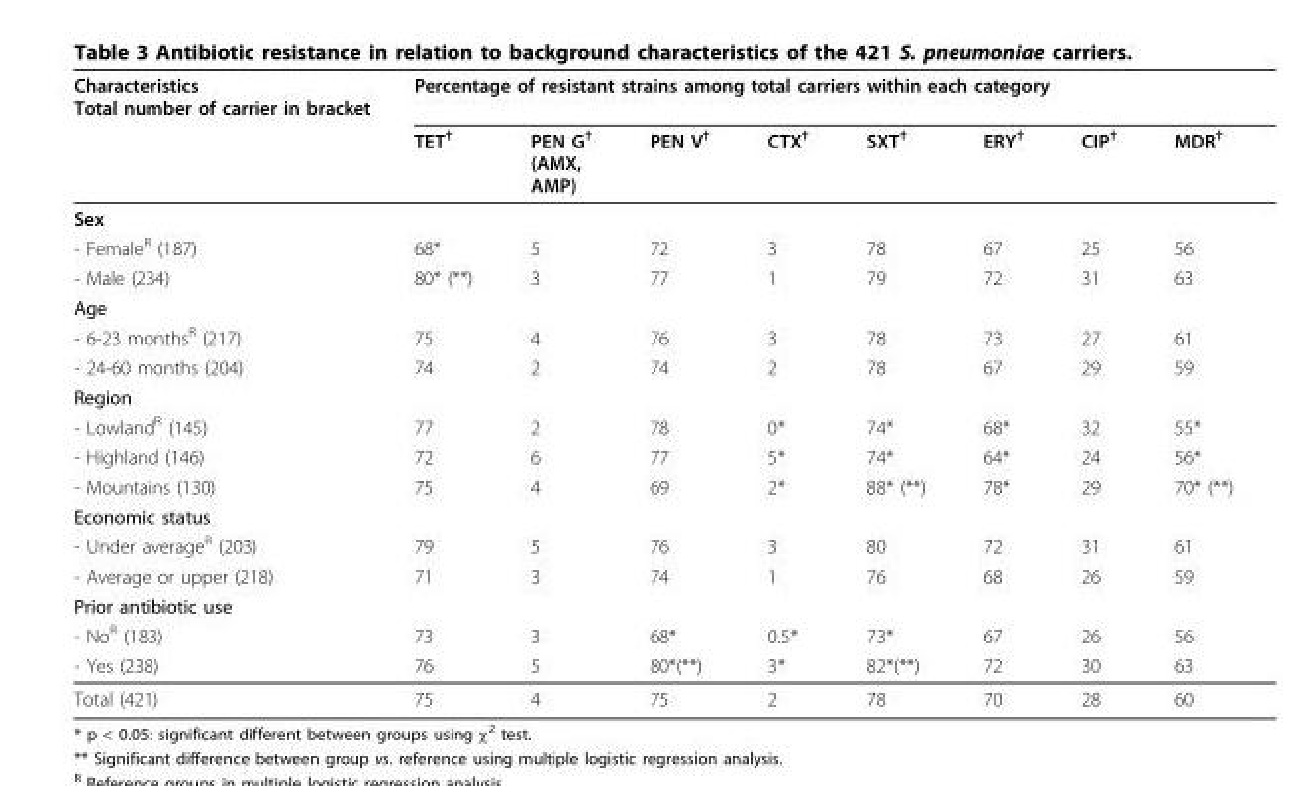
<table><thead><tr><td rowspan="2">Characteristics Total number of carrier in bracket</td><td colspan="8">Percentage of resistant strains among total carriers within each category</td></tr><tr><td>TET<sup>†</sup></td><td>PEN G<sup>†</sup> (AMX, AMP)</td><td>PEN V<sup>†</sup></td><td>CTX<sup>†</sup></td><td>SXT<sup>†</sup></td><td>ERY<sup>†</sup></td><td>CIP<sup>†</sup></td><td>MDR<sup>†</sup></td></tr></thead><tbody><tr><td colspan="9">Sex</td></tr><tr><td>- Female<sup>R</sup> (187)</td><td>68*</td><td>5</td><td>72</td><td>3</td><td>78</td><td>67</td><td>25</td><td>56</td></tr><tr><td>- Male (234)</td><td>80* (**)</td><td>3</td><td>77</td><td>1</td><td>79</td><td>72</td><td>31</td><td>63</td></tr><tr><td colspan="9">Age</td></tr><tr><td>- 6-23 months<sup>R</sup> (217)</td><td>75</td><td>4</td><td>76</td><td>3</td><td>78</td><td>73</td><td>27</td><td>61</td></tr><tr><td>- 24-60 months (204)</td><td>74</td><td>2</td><td>74</td><td>2</td><td>78</td><td>67</td><td>29</td><td>59</td></tr><tr><td colspan="9">Region</td></tr><tr><td>- Lowland<sup>R</sup> (145)</td><td>77</td><td>2</td><td>78</td><td>0*</td><td>74*</td><td>68*</td><td>32</td><td>55*</td></tr><tr><td>- Highland (146)</td><td>72</td><td>6</td><td>77</td><td>5*</td><td>74*</td><td>64*</td><td>24</td><td>56*</td></tr><tr><td>- Mountains (130)</td><td>75</td><td>4</td><td>69</td><td>2*</td><td>88* (**)</td><td>78*</td><td>29</td><td>70* (**)</td></tr><tr><td colspan="9">Economic status</td></tr><tr><td>- Under average<sup>R</sup> (203)</td><td>79</td><td>5</td><td>76</td><td>3</td><td>80</td><td>72</td><td>31</td><td>61</td></tr><tr><td>- Average or upper (218)</td><td>71</td><td>3</td><td>74</td><td>1</td><td>76</td><td>68</td><td>26</td><td>59</td></tr><tr><td colspan="9">Prior antibiotic use</td></tr><tr><td>- No<sup>R</sup> (183)</td><td>73</td><td>3</td><td>68*</td><td>0.5*</td><td>73*</td><td>67</td><td>26</td><td>56</td></tr><tr><td>- Yes (238)</td><td>76</td><td>5</td><td>80*(**)</td><td>3*</td><td>82*(**)</td><td>72</td><td>30</td><td>63</td></tr><tr><td>Total (421)</td><td>75</td><td>4</td><td>75</td><td>2</td><td>78</td><td>70</td><td>28</td><td>60</td></tr></tbody></table>